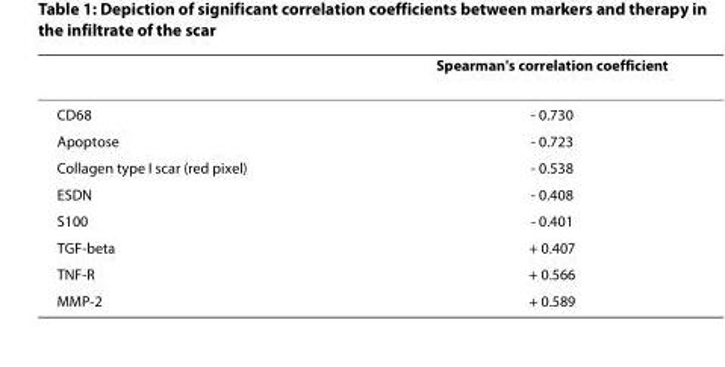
<table><thead><tr><td></td><td>Spearman&#x27;s correlation coefficient</td></tr></thead><tbody><tr><td>CD68</td><td>- 0.730</td></tr><tr><td>Apoptose</td><td>- 0.723</td></tr><tr><td>Collagen type I scar (red pixel)</td><td>- 0.538</td></tr><tr><td>ESDN</td><td>- 0.408</td></tr><tr><td>S100</td><td>- 0.401</td></tr><tr><td>TGF-beta</td><td>+ 0.407</td></tr><tr><td>TNF-R</td><td>+ 0.566</td></tr><tr><td>MMP-2</td><td>+ 0.589</td></tr></tbody></table>